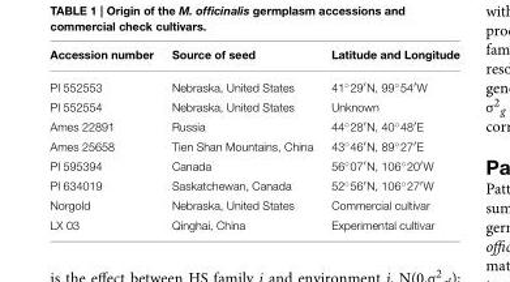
<table><thead><tr><td>Accession number</td><td>Source of seed</td><td>Latitude and Longitude</td></tr></thead><tbody><tr><td>PI 552553</td><td>Nebraska, United States</td><td>41◦29′N, 99◦54′W</td></tr><tr><td>PI 552554</td><td>Nebraska, United States</td><td>Unknown</td></tr><tr><td>Ames 22891</td><td>Russia</td><td>44◦28′N, 40◦48′E</td></tr><tr><td>Ames 25658</td><td>Tien Shan Mountains, China</td><td>43◦46′N, 89◦27′E</td></tr><tr><td>PI 595394</td><td>Canada</td><td>56◦07′N, 106◦20′W</td></tr><tr><td>PI 634019</td><td>Saskatchewan, Canada</td><td>52◦56′N, 106◦27′W</td></tr><tr><td>Norgold</td><td>Nebraska, United States</td><td>Commercial cultivar</td></tr><tr><td>LX 03</td><td>Qinghai, China</td><td>Experimental cultivar</td></tr></tbody></table>